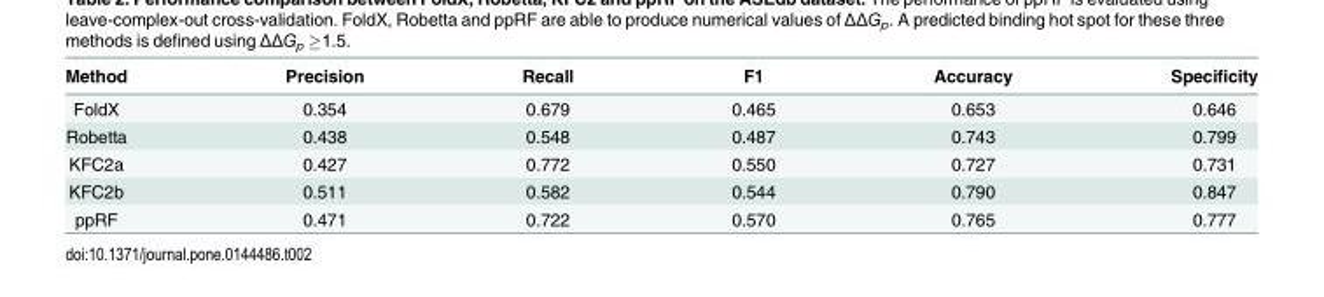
<table><thead><tr><td>Method</td><td>Precision</td><td>Recall</td><td>F1</td><td>Accuracy</td><td>Specificity</td></tr></thead><tbody><tr><td>FoldX</td><td>0.354</td><td>0.679</td><td>0.465</td><td>0.653</td><td>0.646</td></tr><tr><td>Robetta</td><td>0.438</td><td>0.548</td><td>0.487</td><td>0.743</td><td>0.799</td></tr><tr><td>KFC2a</td><td>0.427</td><td>0.772</td><td>0.550</td><td>0.727</td><td>0.731</td></tr><tr><td>KFC2b</td><td>0.511</td><td>0.582</td><td>0.544</td><td>0.790</td><td>0.847</td></tr><tr><td>ppRF</td><td>0.471</td><td>0.722</td><td>0.570</td><td>0.765</td><td>0.777</td></tr></tbody></table>